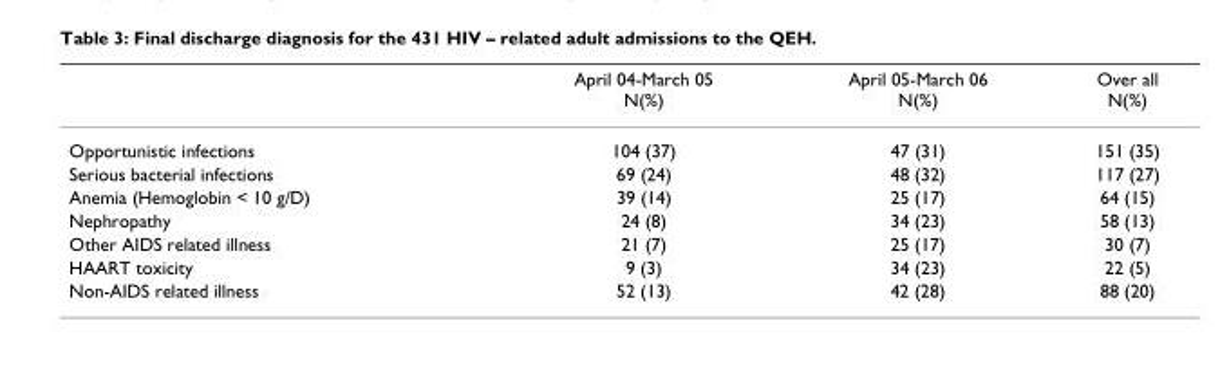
<table><thead><tr><td></td><td>April 04-March 05 N(%)</td><td>April 05-March 06 N(%)</td><td>Over all N(%)</td></tr></thead><tbody><tr><td>Opportunistic infections</td><td>104 (37)</td><td>47 (31)</td><td>151 (35)</td></tr><tr><td>Serious bacterial infections</td><td>69 (24)</td><td>48 (32)</td><td>117 (27)</td></tr><tr><td>Anemia (Hemoglobin &lt; 10 g/D)</td><td>39 (14)</td><td>25 (17)</td><td>64 (15)</td></tr><tr><td>Nephropathy</td><td>24 (8)</td><td>34 (23)</td><td>58 (13)</td></tr><tr><td>Other AIDS related illness</td><td>21 (7)</td><td>25 (17)</td><td>30 (7)</td></tr><tr><td>HAART toxicity</td><td>9 (3)</td><td>34 (23)</td><td>22 (5)</td></tr><tr><td>Non-AIDS related illness</td><td>52 (13)</td><td>42 (28)</td><td>88 (20)</td></tr></tbody></table>